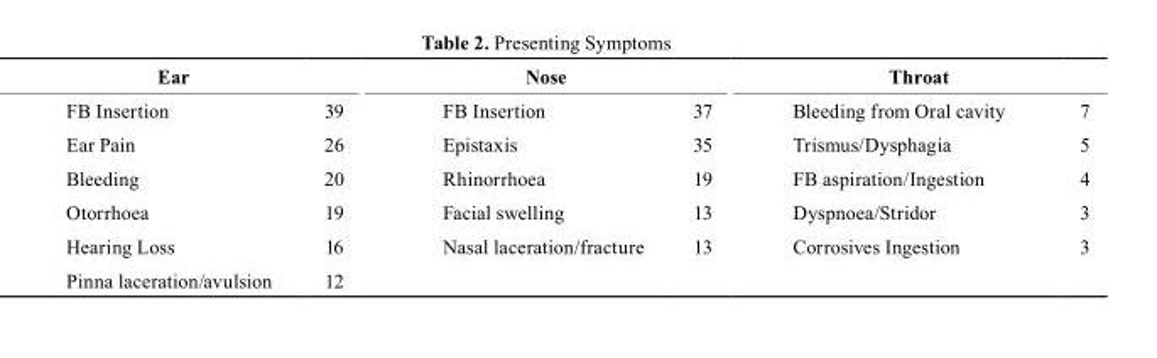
<table><thead><tr><td colspan="2">Ear</td><td colspan="2">Nose</td><td colspan="2">throat</td></tr><tr><td>FB Insertion</td><td>39</td><td>FB Insertion</td><td>37</td><td>Bleeding from Oral cavity</td><td>7</td></tr></thead><tbody><tr><td>Ear Pain</td><td>26</td><td>Epistaxis</td><td>35</td><td>Trismus/Dysphagia</td><td>5</td></tr><tr><td>Bleeding</td><td>20</td><td>Rhinorrhoea</td><td>19</td><td>FB aspiration/Ingestion</td><td>4</td></tr><tr><td>Otorrhoea</td><td>19</td><td>Facial swelling</td><td>13</td><td>Dyspnoea/Stridor</td><td>3</td></tr><tr><td>Hearing Loss</td><td>16</td><td>Nasal laceration/fracture</td><td>13</td><td>Corrosives Ingestion</td><td>3</td></tr><tr><td>Pinna laceration/avulsion</td><td>12</td><td></td><td></td><td></td><td></td></tr></tbody></table>